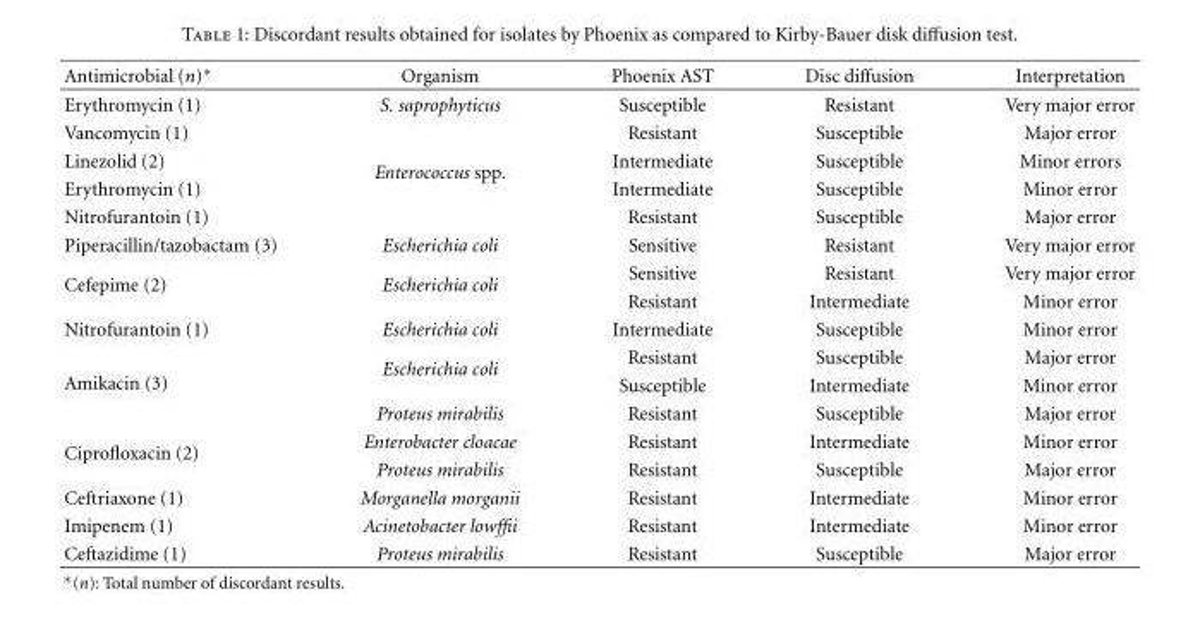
<table><thead><tr><td>Antimicrobial (n)∗</td><td>Organism</td><td>Phoenix AST</td><td>Disc diffusion</td><td>Interpretation</td></tr></thead><tbody><tr><td>Erythromycin (1)</td><td>S. saprophyticus</td><td>Susceptible</td><td>Resistant</td><td>Very major error</td></tr><tr><td>Vancomycin (1)</td><td rowspan="4">Enterococcus spp.</td><td>Resistant</td><td>Susceptible</td><td>Major error</td></tr><tr><td>Linezolid (2)</td><td>Intermediate</td><td>Susceptible</td><td>Minor errors</td></tr><tr><td>Erythromycin (1)</td><td>Intermediate</td><td>Susceptible</td><td>Minor error</td></tr><tr><td>Nitrofurantoin (1)</td><td>Resistant</td><td>Susceptible</td><td>Major error</td></tr><tr><td>Piperacillin/tazobactam (3)</td><td>Escherichia coli</td><td>Sensitive</td><td>Resistant</td><td>Very major error</td></tr><tr><td rowspan="2">Cefepime (2)</td><td rowspan="2">Escherichia coli</td><td>Sensitive</td><td>Resistant</td><td>Very major error</td></tr><tr><td>Resistant</td><td>Intermediate</td><td>Minor error</td></tr><tr><td>Nitrofurantoin (1)</td><td>Escherichia coli</td><td>Intermediate</td><td>Susceptible</td><td>Minor error</td></tr><tr><td rowspan="3">Amikacin (3)</td><td rowspan="2">Escherichia coli</td><td>Resistant</td><td>Susceptible</td><td>Major error</td></tr><tr><td>Susceptible</td><td>Intermediate</td><td>Minor error</td></tr><tr><td>Proteus mirabilis</td><td>Resistant</td><td>Susceptible</td><td>Major error</td></tr><tr><td rowspan="2">Ciprofloxacin (2)</td><td>Enterobacter cloacae</td><td>Resistant</td><td>Intermediate</td><td>Minor error</td></tr><tr><td>Proteus mirabilis</td><td>Resistant</td><td>Susceptible</td><td>Major error</td></tr><tr><td>Ceftriaxone (1)</td><td>Morganella morganii</td><td>Resistant</td><td>Intermediate</td><td>Minor error</td></tr><tr><td>Imipenem (1)</td><td>Acinetobacter lowffii</td><td>Resistant</td><td>Intermediate</td><td>Minor error</td></tr><tr><td>Ceftazidime (1)</td><td>Proteus mirabilis</td><td>Resistant</td><td>Susceptible</td><td>Major error</td></tr></tbody></table>